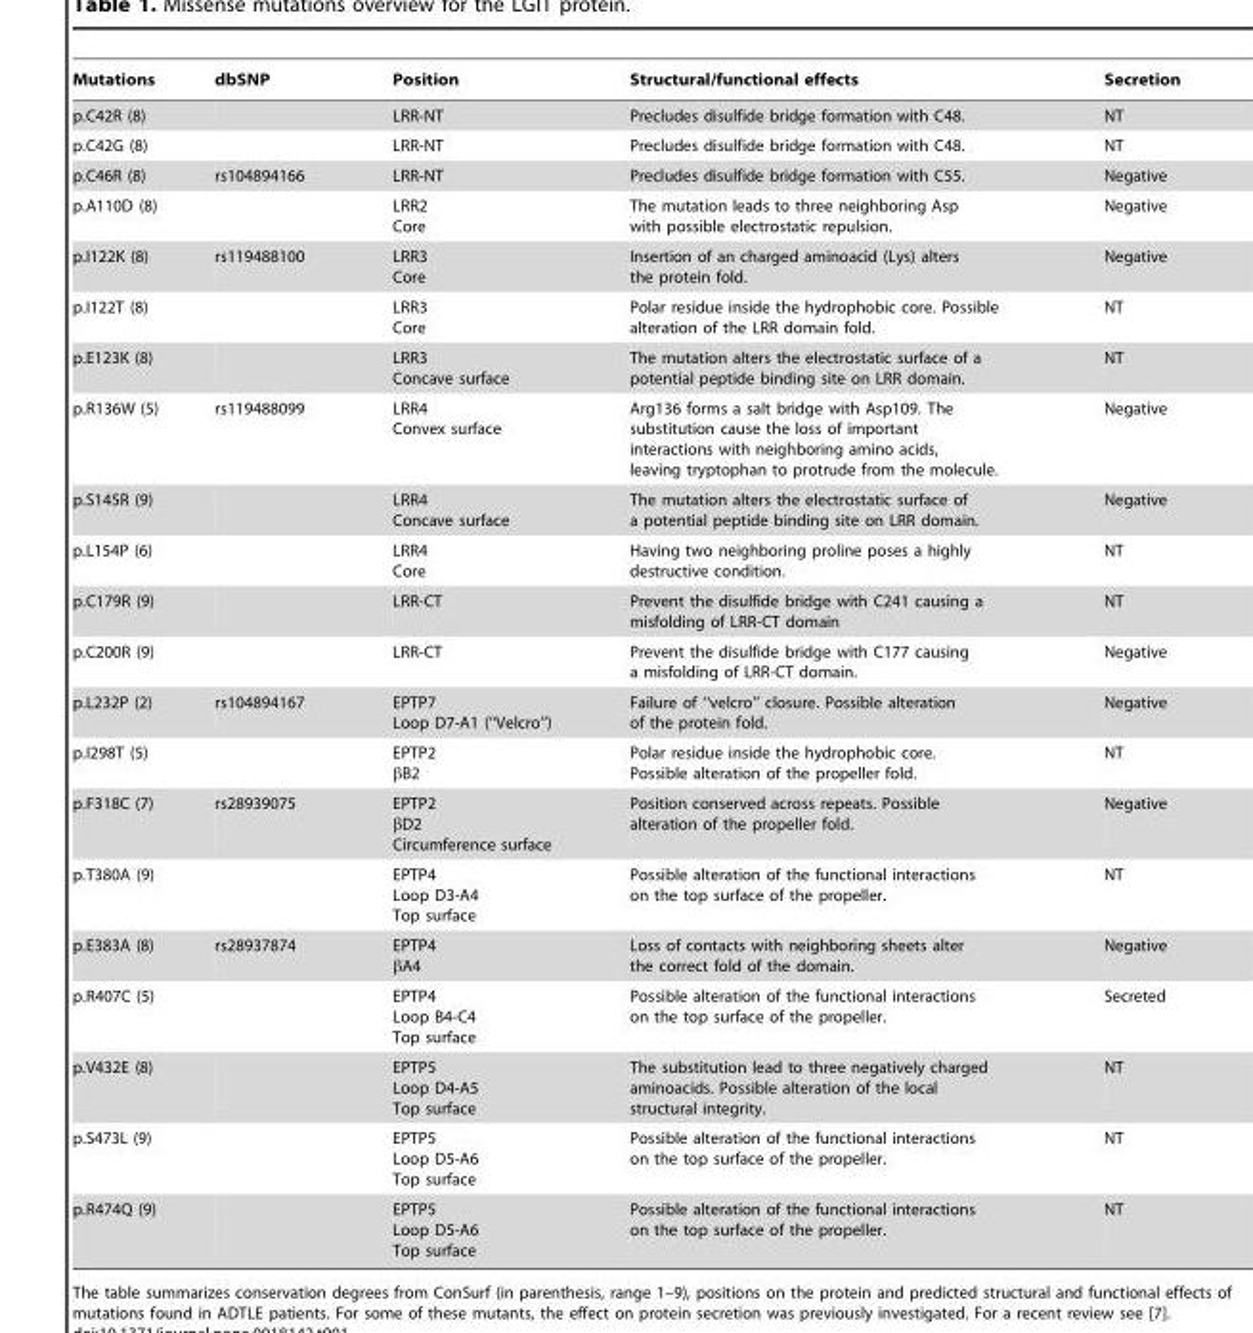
<table><thead><tr><td>Mutations</td><td>dbSNP</td><td>Position</td><td>Structural/functional effects</td><td>Secretion</td></tr></thead><tbody><tr><td>p.C42R (8)</td><td></td><td>LRR-NT</td><td>Precludes disulfide bridge formation with C48.</td><td>NT</td></tr><tr><td>p.C42G (8)</td><td></td><td>LRR-NT</td><td>Precludes disulfide bridge formation with C48.</td><td>NT</td></tr><tr><td>p.C46R (8)</td><td>rs104894166</td><td>LRR-NT</td><td>Precludes disulfide bridge formation with C55.</td><td>Negative</td></tr><tr><td>p.A110D (8)</td><td></td><td>LRR2 Core</td><td>The mutation leads to three neighboring Asp with possible electrostatic repulsion.</td><td>Negative</td></tr><tr><td>p.I122K (8)</td><td>rs119488100</td><td>LRR3 Core</td><td>Insertion of an charged aminoacid (Lys) alters the protein fold.</td><td>Negative</td></tr><tr><td>p.I122T (8)</td><td></td><td>LRR3 Core</td><td>Polar residue inside the hydrophobic core. Possible alteration of the LRR domain fold.</td><td>NT</td></tr><tr><td>p.E123K (8)</td><td></td><td>LRR3 Concave surface</td><td>The mutation alters the electrostatic surface of a potential peptide binding site on LRR domain.</td><td>NT</td></tr><tr><td>p.R136W (5)</td><td>rs119488099</td><td>LRR4 Convex surface</td><td>Arg136 forms a salt bridge with Asp109. The substitution cause the loss of important interactions with neighboring amino acids, leaving tryptophan to protrude from the molecule.</td><td>Negative</td></tr><tr><td>p.S145R (9)</td><td></td><td>LRR4 Concave surface</td><td>The mutation alters the electrostatic surface of a potential peptide binding site on LRR domain.</td><td>Negative</td></tr><tr><td>p.L154P (6)</td><td></td><td>LRR4 Core</td><td>Having two neighboring proline poses a highly destructive condition.</td><td>NT</td></tr><tr><td>p.C179R (9)</td><td></td><td>LRR-CT</td><td>Prevent the disulfide bridge with C241 causing a misfolding of LRR-CT domain</td><td>NT</td></tr><tr><td>p.C200R (9)</td><td></td><td>LRR-CT</td><td>Prevent the disulfide bridge with C177 causing a misfolding of LRR-CT domain.</td><td>Negative</td></tr><tr><td>p.L232P (2)</td><td>rs104894167</td><td>EPTP7 Loop D7-A1 (‘‘Velcro’’)</td><td>Failure of ‘‘velcro’’ closure. Possible alteration of the protein fold.</td><td>Negative</td></tr><tr><td>p.I298T (5)</td><td></td><td>EPTP2 βB2</td><td>Polar residue inside the hydrophobic core. Possible alteration of the propeller fold.</td><td>NT</td></tr><tr><td>p.F318C (7)</td><td>rs28939075</td><td>EPTP2 βD2 Circumference surface</td><td>Position conserved across repeats. Possible alteration of the propeller fold.</td><td>Negative</td></tr><tr><td>p.T380A (9)</td><td></td><td>EPTP4 Loop D3-A4 Top surface</td><td>Possible alteration of the functional interactions on the top surface of the propeller.</td><td>NT</td></tr><tr><td>p.E383A (8)</td><td>rs28937874</td><td>EPTP4 βA4</td><td>Loss of contacts with neighboring sheets alter the correct fold of the domain.</td><td>Negative</td></tr><tr><td>p.R407C (5)</td><td></td><td>EPTP4 Loop B4-C4 Top surface</td><td>Possible alteration of the functional interactions on the top surface of the propeller.</td><td>Secreted</td></tr><tr><td>p.V432E (8)</td><td></td><td>EPTP5 Loop D4-A5 Top surface</td><td>The substitution lead to three negatively charged aminoacids. Possible alteration of the local structural integrity.</td><td>NT</td></tr><tr><td>p.S473L (9)</td><td></td><td>EPTP5 Loop D5-A6 Top surface</td><td>Possible alteration of the functional interactions on the top surface of the propeller.</td><td>NT</td></tr><tr><td>p.R474Q (9)</td><td></td><td>EPTP5 Loop D5-A6 Top surface</td><td>Possible alteration of the functional interactions on the top surface of the propeller.</td><td>NT</td></tr></tbody></table>